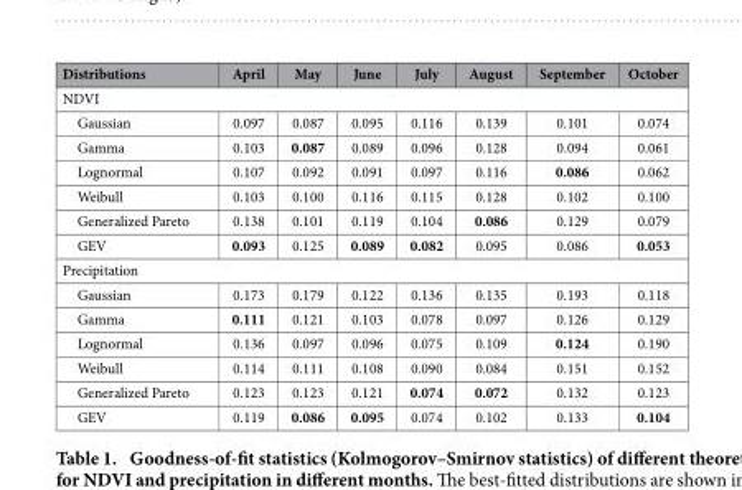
<table><thead><tr><td>Distributions</td><td>April</td><td>May</td><td>June</td><td>July</td><td>August</td><td>September</td><td>October</td></tr></thead><tbody><tr><td colspan="8">NDVI</td></tr><tr><td>Gaussian</td><td>0.097</td><td>0.087</td><td>0.095</td><td>0.116</td><td>0.139</td><td>0.101</td><td>0.074</td></tr><tr><td>Gamma</td><td>0.103</td><td>0.087</td><td>0.089</td><td>0.096</td><td>0.128</td><td>0.094</td><td>0.061</td></tr><tr><td>Lognormal</td><td>0.107</td><td>0.092</td><td>0.091</td><td>0.097</td><td>0.116</td><td>0.086</td><td>0.062</td></tr><tr><td>Weibull</td><td>0.103</td><td>0.100</td><td>0.116</td><td>0.115</td><td>0.128</td><td>0.102</td><td>0.100</td></tr><tr><td>Generalized Pareto</td><td>0.138</td><td>0.101</td><td>0.119</td><td>0.104</td><td>0.086</td><td>0.129</td><td>0.079</td></tr><tr><td>GEV</td><td>0.093</td><td>0.125</td><td>0.089</td><td>0.082</td><td>0.095</td><td>0.086</td><td>0.053</td></tr><tr><td colspan="8">Precipitation</td></tr><tr><td>Gaussian</td><td>0.173</td><td>0.179</td><td>0.122</td><td>0.136</td><td>0.135</td><td>0.193</td><td>0.118</td></tr><tr><td>Gamma</td><td>0.111</td><td>0.121</td><td>0.103</td><td>0.078</td><td>0.097</td><td>0.126</td><td>0.129</td></tr><tr><td>Lognormal</td><td>0.136</td><td>0.097</td><td>0.096</td><td>0.075</td><td>0.109</td><td>0.124</td><td>0.190</td></tr><tr><td>Weibull</td><td>0.114</td><td>0.111</td><td>0.108</td><td>0.090</td><td>0.084</td><td>0.151</td><td>0.152</td></tr><tr><td>Generalized Pareto</td><td>0.123</td><td>0.123</td><td>0.121</td><td>0.074</td><td>0.072</td><td>0.132</td><td>0.123</td></tr><tr><td>GEV</td><td>0.119</td><td>0.086</td><td>0.095</td><td>0.074</td><td>0.102</td><td>0.133</td><td>0.104</td></tr></tbody></table>